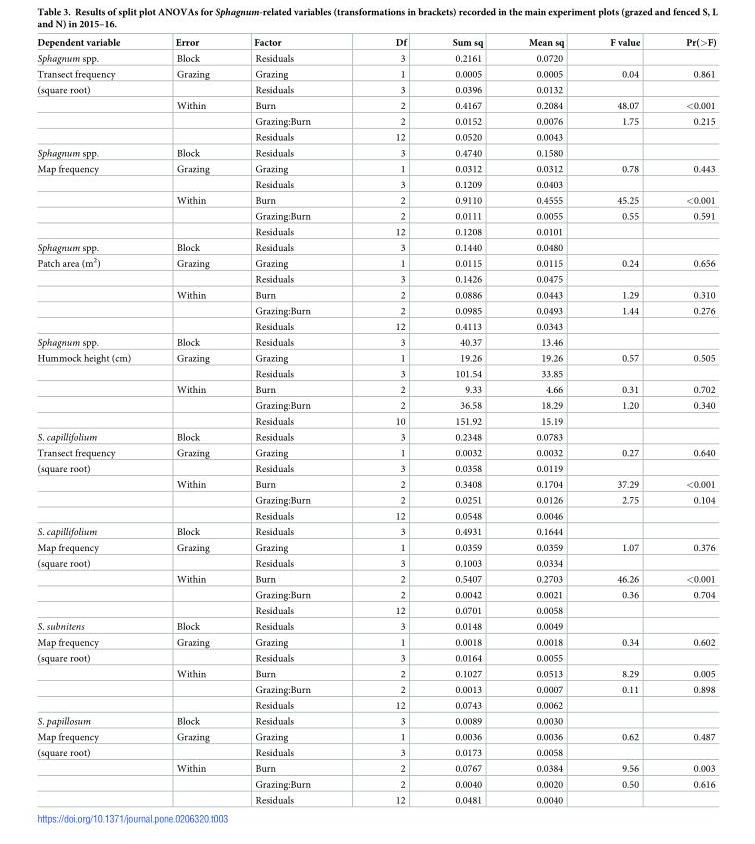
<table><thead><tr><td>Dependent variable</td><td>Error</td><td>Factor</td><td>Df</td><td>Sum sq</td><td>Mean sq</td><td>F value</td><td>Pr(&gt;F)</td></tr></thead><tbody><tr><td>Sphagnum spp.</td><td>Block</td><td>Residuals</td><td>3</td><td>0.2161</td><td>0.0720</td><td></td><td></td></tr><tr><td>Transect frequency</td><td>Grazing</td><td>Grazing</td><td>1</td><td>0.0005</td><td>0.0005</td><td>0.04</td><td>0.861</td></tr><tr><td rowspan="4">(square root)</td><td></td><td>Residuals</td><td>3</td><td>0.0396</td><td>0.0132</td><td></td><td></td></tr><tr><td>Within</td><td>Burn</td><td>2</td><td>0.4167</td><td>0.2084</td><td>48.07</td><td>&lt;0.001</td></tr><tr><td></td><td>Grazing:Burn</td><td>2</td><td>0.0152</td><td>0.0076</td><td>1.75</td><td>0.215</td></tr><tr><td></td><td>Residuals</td><td>12</td><td>0.0520</td><td>0.0043</td><td></td><td></td></tr><tr><td>Sphagnum spp.</td><td>Block</td><td>Residuals</td><td>3</td><td>0.4740</td><td>0.1580</td><td></td><td></td></tr><tr><td rowspan="5">Map frequency</td><td>Grazing</td><td>Grazing</td><td>1</td><td>0.0312</td><td>0.0312</td><td>0.78</td><td>0.443</td></tr><tr><td></td><td>Residuals</td><td>3</td><td>0.1209</td><td>0.0403</td><td></td><td></td></tr><tr><td>Within</td><td>Burn</td><td>2</td><td>0.9110</td><td>0.4555</td><td>45.25</td><td>&lt;0.001</td></tr><tr><td></td><td>Grazing:Burn</td><td>2</td><td>0.0111</td><td>0.0055</td><td>0.55</td><td>0.591</td></tr><tr><td></td><td>Residuals</td><td>12</td><td>0.1208</td><td>0.0101</td><td></td><td></td></tr><tr><td>Sphagnum spp.</td><td>Block</td><td>Residuals</td><td>3</td><td>0.1440</td><td>0.0480</td><td></td><td></td></tr><tr><td rowspan="5">Patch area (m<sup>2</sup>)</td><td>Grazing</td><td>Grazing</td><td>1</td><td>0.0115</td><td>0.0115</td><td>0.24</td><td>0.656</td></tr><tr><td></td><td>Residuals</td><td>3</td><td>0.1426</td><td>0.0475</td><td></td><td></td></tr><tr><td>Within</td><td>Burn</td><td>2</td><td>0.0886</td><td>0.0443</td><td>1.29</td><td>0.310</td></tr><tr><td></td><td>Grazing:Burn</td><td>2</td><td>0.0985</td><td>0.0493</td><td>1.44</td><td>0.276</td></tr><tr><td></td><td>Residuals</td><td>12</td><td>0.4113</td><td>0.0343</td><td></td><td></td></tr><tr><td>Sphagnum spp.</td><td>Block</td><td>Residuals</td><td>3</td><td>40.37</td><td>13.46</td><td></td><td></td></tr><tr><td rowspan="5">Hummock height (cm)</td><td>Grazing</td><td>Grazing</td><td>1</td><td>19.26</td><td>19.26</td><td>0.57</td><td>0.505</td></tr><tr><td></td><td>Residuals</td><td>3</td><td>101.54</td><td>33.85</td><td></td><td></td></tr><tr><td>Within</td><td>Burn</td><td>2</td><td>9.33</td><td>4.66</td><td>0.31</td><td>0.702</td></tr><tr><td></td><td>Grazing:Burn</td><td>2</td><td>36.58</td><td>18.29</td><td>1.20</td><td>0.340</td></tr><tr><td></td><td>Residuals</td><td>10</td><td>151.92</td><td>15.19</td><td></td><td></td></tr><tr><td>S. capillifolium</td><td>Block</td><td>Residuals</td><td>3</td><td>0.2348</td><td>0.0783</td><td></td><td></td></tr><tr><td>Transect frequency</td><td>Grazing</td><td>Grazing</td><td>1</td><td>0.0032</td><td>0.0032</td><td>0.27</td><td>0.640</td></tr><tr><td rowspan="4">(square root)</td><td></td><td>Residuals</td><td>3</td><td>0.0358</td><td>0.0119</td><td></td><td></td></tr><tr><td>Within</td><td>Burn</td><td>2</td><td>0.3408</td><td>0.1704</td><td>37.29</td><td>&lt;0.001</td></tr><tr><td></td><td>Grazing:Burn</td><td>2</td><td>0.0251</td><td>0.0126</td><td>2.75</td><td>0.104</td></tr><tr><td></td><td>Residuals</td><td>12</td><td>0.0548</td><td>0.0046</td><td></td><td></td></tr><tr><td>S. capillifolium</td><td>Block</td><td>Residuals</td><td>3</td><td>0.4931</td><td>0.1644</td><td></td><td></td></tr><tr><td>Map frequency</td><td>Grazing</td><td>Grazing</td><td>1</td><td>0.0359</td><td>0.0359</td><td>1.07</td><td>0.376</td></tr><tr><td rowspan="4">(square root)</td><td></td><td>Residuals</td><td>3</td><td>0.1003</td><td>0.0334</td><td></td><td></td></tr><tr><td>Within</td><td>Burn</td><td>2</td><td>0.5407</td><td>0.2703</td><td>46.26</td><td>&lt;0.001</td></tr><tr><td></td><td>Grazing:Burn</td><td>2</td><td>0.0042</td><td>0.0021</td><td>0.36</td><td>0.704</td></tr><tr><td></td><td>Residuals</td><td>12</td><td>0.0701</td><td>0.0058</td><td></td><td></td></tr><tr><td>S. subnitens</td><td>Block</td><td>Residuals</td><td>3</td><td>0.0148</td><td>0.0049</td><td></td><td></td></tr><tr><td>Map frequency</td><td>Grazing</td><td>Grazing</td><td>1</td><td>0.0018</td><td>0.0018</td><td>0.34</td><td>0.602</td></tr><tr><td rowspan="4">(square root)</td><td></td><td>Residuals</td><td>3</td><td>0.0164</td><td>0.0055</td><td></td><td></td></tr><tr><td>Within</td><td>Burn</td><td>2</td><td>0.1027</td><td>0.0513</td><td>8.29</td><td>0.005</td></tr><tr><td></td><td>Grazing:Burn</td><td>2</td><td>0.0013</td><td>0.0007</td><td>0.11</td><td>0.898</td></tr><tr><td></td><td>Residuals</td><td>12</td><td>0.0743</td><td>0.0062</td><td></td><td></td></tr><tr><td>S. papillosum</td><td>Block</td><td>Residuals</td><td>3</td><td>0.0089</td><td>0.0030</td><td></td><td></td></tr><tr><td>Map frequency</td><td>Grazing</td><td>Grazing</td><td>1</td><td>0.0036</td><td>0.0036</td><td>0.62</td><td>0.487</td></tr><tr><td rowspan="4">(square root)</td><td></td><td>Residuals</td><td>3</td><td>0.0173</td><td>0.0058</td><td></td><td></td></tr><tr><td>Within</td><td>Burn</td><td>2</td><td>0.0767</td><td>0.0384</td><td>9.56</td><td>0.003</td></tr><tr><td></td><td>Grazing:Burn</td><td>2</td><td>0.0040</td><td>0.0020</td><td>0.50</td><td>0.616</td></tr><tr><td></td><td>Residuals</td><td>12</td><td>0.0481</td><td>0.0040</td><td></td><td></td></tr></tbody></table>